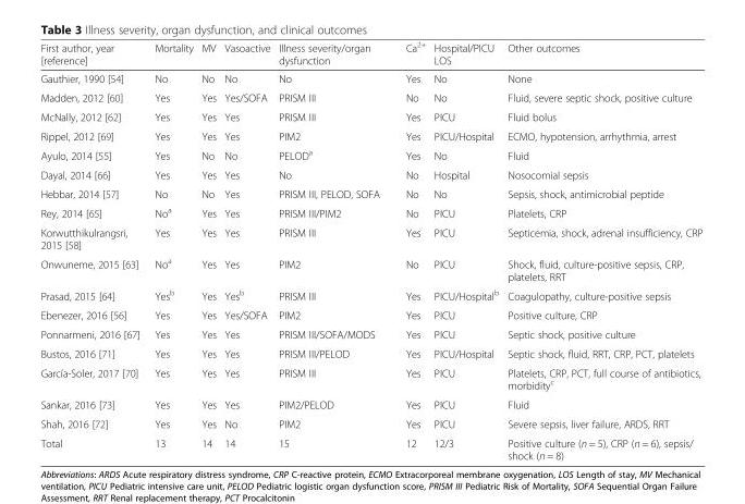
<table><thead><tr><td>First author, year [reference]</td><td>Mortality</td><td>MV</td><td>Vasoactive</td><td>Illness severity/organ dysfunction</td><td>Ca<sup>2+</sup></td><td>Hospital/PICU LOS</td><td>Other outcomes</td></tr></thead><tbody><tr><td>Gauthier, 1990 [54]</td><td>No</td><td>No</td><td>No</td><td>No</td><td>Yes</td><td>No</td><td>None</td></tr><tr><td>Madden, 2012 [60]</td><td>Yes</td><td>Yes</td><td>Yes/SOFA</td><td>PRISM III</td><td>No</td><td>No</td><td>Fluid, severe septic shock, positive culture</td></tr><tr><td>McNally, 2012 [62]</td><td>Yes</td><td>Yes</td><td>Yes</td><td>PRISM III</td><td>Yes</td><td>PICU</td><td>Fluid bolus</td></tr><tr><td>Rippel, 2012 [69]</td><td>Yes</td><td>Yes</td><td>Yes</td><td>PIM2</td><td>Yes</td><td>PICU/Hospital</td><td>ECMO, hypotension, arrhythmia, arrest</td></tr><tr><td>Ayulo, 2014 [55]</td><td>Yes</td><td>No</td><td>No</td><td>PELOD<sup>a</sup></td><td>Yes</td><td>No</td><td>Fluid</td></tr><tr><td>Dayal, 2014 [66]</td><td>Yes</td><td>Yes</td><td>Yes</td><td>No</td><td>No</td><td>Hospital</td><td>Nosocomial sepsis</td></tr><tr><td>Hebbar, 2014 [57]</td><td>No</td><td>No</td><td>Yes</td><td>PRISM III, PELOD, SOFA</td><td>No</td><td>No</td><td>Sepsis, shock, antimicrobial peptide</td></tr><tr><td>Rey, 2014 [65]</td><td>No<sup>a</sup></td><td>Yes</td><td>Yes</td><td>PRISM III/PIM2</td><td>No</td><td>PICU</td><td>Platelets, CRP</td></tr><tr><td>Korwutthikulrangsri, 2015 [58]</td><td>Yes</td><td>Yes</td><td>Yes</td><td>PRISM III</td><td>Yes</td><td>PICU</td><td>Septicemia, shock, adrenal insufficiency, CRP</td></tr><tr><td>Onwuneme, 2015 [63]</td><td>No<sup>a</sup></td><td>Yes</td><td>Yes</td><td>PIM2</td><td>No</td><td>PICU</td><td>Shock, fluid, culture-positive sepsis, CRP, platelets, RRT</td></tr><tr><td>Prasad, 2015 [64]</td><td>Yes<sup>b</sup></td><td>Yes</td><td>Yes<sup>b</sup></td><td>PRISM III</td><td>Yes</td><td>PICU/Hospital<sup>b</sup></td><td>Coagulopathy, culture-positive sepsis</td></tr><tr><td>Ebenezer, 2016 [56]</td><td>Yes</td><td>Yes</td><td>Yes/SOFA</td><td>PIM2</td><td>Yes</td><td>PICU</td><td>Positive culture, CRP</td></tr><tr><td>Ponnarmeni, 2016 [67]</td><td>Yes</td><td>Yes</td><td>Yes</td><td>PRISM III/SOFA/MODS</td><td>Yes</td><td>PICU</td><td>Septic shock, positive culture</td></tr><tr><td>Bustos, 2016 [71]</td><td>Yes</td><td>Yes</td><td>Yes</td><td>PRISM III/PELOD</td><td>Yes</td><td>PICU/Hospital</td><td>Septic shock, fluid, RRT, CRP, PCT, platelets</td></tr><tr><td>García-Soler, 2017 [70]</td><td>Yes</td><td>Yes</td><td>Yes</td><td>PRISM III</td><td>Yes</td><td>PICU</td><td>Platelets, CRP, PCT, full course of antibiotics, morbidity<sup>c</sup></td></tr><tr><td>Sankar, 2016 [73]</td><td>Yes</td><td>Yes</td><td>Yes</td><td>PIM2/PELOD</td><td>Yes</td><td>PICU</td><td>Fluid</td></tr><tr><td>Shah, 2016 [72]</td><td>Yes</td><td>Yes</td><td>No</td><td>PIM2</td><td>Yes</td><td>PICU</td><td>Severe sepsis, liver failure, ARDS, RRT</td></tr><tr><td>Total</td><td>13</td><td>14</td><td>14</td><td>15</td><td>12</td><td>12/3</td><td>Positive culture (n = 5), CRP (n = 6), sepsis/ shock (n = 8)</td></tr></tbody></table>